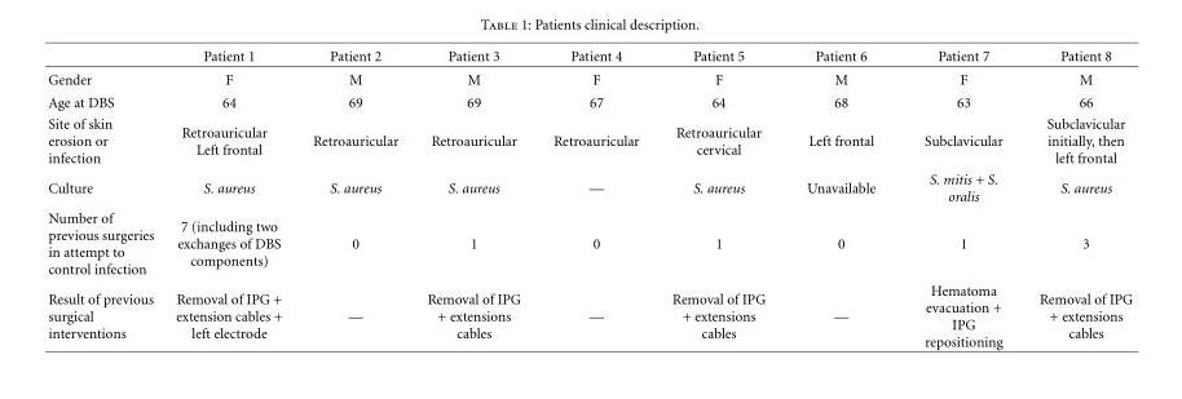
<table><thead><tr><td></td><td>Patient 1</td><td>Patient 2</td><td>Patient 3</td><td>Patient 4</td><td>Patient 5</td><td>Patient 6</td><td>Patient 7</td><td>Patient 8</td></tr></thead><tbody><tr><td>Gender</td><td>F</td><td>M</td><td>M</td><td>F</td><td>F</td><td>M</td><td>F</td><td>M</td></tr><tr><td>Age at DBS</td><td>64</td><td>69</td><td>69</td><td>67</td><td>64</td><td>68</td><td>63</td><td>66</td></tr><tr><td>Site of skin erosion or infection</td><td>Retroauricular Left frontal</td><td>Retroauricular</td><td>Retroauricular</td><td>Retroauricular</td><td>Retroauricular cervical</td><td>Left frontal</td><td>Subclavicular</td><td>Subclavicular initially, then left frontal</td></tr><tr><td>Culture</td><td>S. aureus</td><td>S. aureus</td><td>S. aureus</td><td>—</td><td>S. aureus</td><td>Unavailable</td><td>S. mitis + S. oralis</td><td>S. aureus</td></tr><tr><td>Number of previous surgeries in attempt to control infection</td><td>7 (including two exchanges of DBS components)</td><td>0</td><td>1</td><td>0</td><td>1</td><td>0</td><td>1</td><td>3</td></tr><tr><td>Result of previous surgical interventions</td><td>Removal of IPG + extension cables + left electrode</td><td>—</td><td>Removal of IPG + extensions cables</td><td>—</td><td>Removal of IPG + extensions cables</td><td>—</td><td>Hematoma evacuation + IPG repositioning</td><td>Removal of IPG + extensions cables</td></tr></tbody></table>